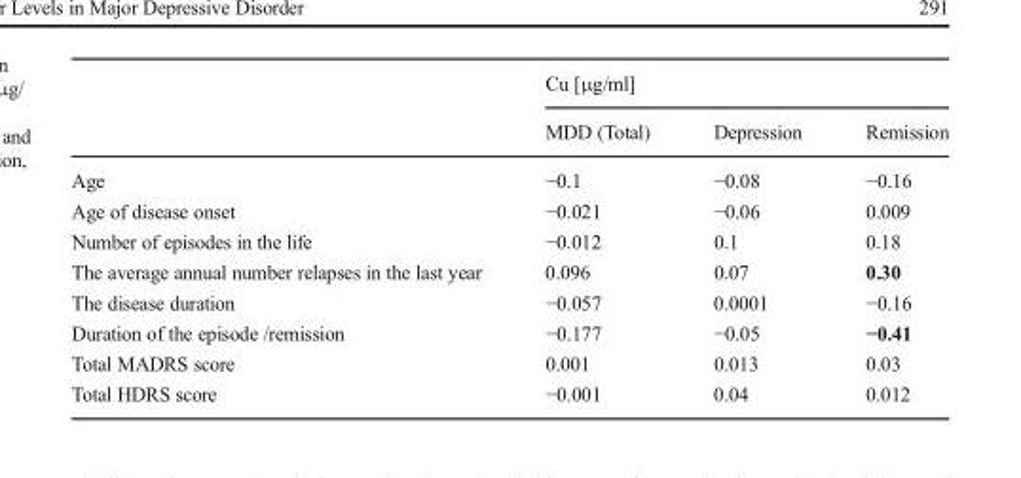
<table><thead><tr><td rowspan="2"></td><td colspan="3">Cu [μg/ml]</td></tr><tr><td>MDD (Total)</td><td>Depression</td><td>Remission</td></tr></thead><tbody><tr><td>Age</td><td>−0.1</td><td>−0.08</td><td>−0.16</td></tr><tr><td>Age of disease onset</td><td>−0.021</td><td>−0.06</td><td>0.009</td></tr><tr><td>Number of episodes in the life</td><td>−0.012</td><td>0.1</td><td>0.18</td></tr><tr><td>The average annual number relapses in the last year</td><td>0.096</td><td>0.07</td><td>0.30</td></tr><tr><td>The disease duration</td><td>−0.057</td><td>0.0001</td><td>−0.16</td></tr><tr><td>Duration of the episode /remission</td><td>−0.177</td><td>−0.05</td><td>−0.41</td></tr><tr><td>Total MADRS score</td><td>0.001</td><td>0.013</td><td>0.03</td></tr><tr><td>Total HDRS score</td><td>−0.001</td><td>0.04</td><td>0.012</td></tr></tbody></table>